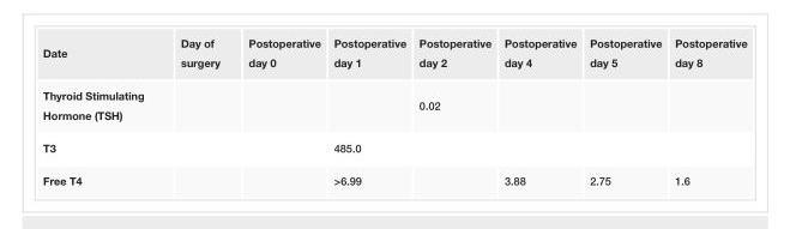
<table><tbody><tr><td>Date</td><td>Day of surgery</td><td>Postoperative day 0</td><td>Postoperative day 1</td><td>Postoperative day 2</td><td>Postoperative day 4</td><td>Postoperative day 5</td><td>Postoperative day 8</td></tr><tr><td>Thyroid Stimulating Hormone (TSH)</td><td></td><td></td><td></td><td>0.02</td><td></td><td></td><td></td></tr><tr><td>T3</td><td></td><td></td><td>485.0</td><td></td><td></td><td></td><td></td></tr><tr><td>Free T4</td><td></td><td></td><td>&gt;6.99</td><td></td><td>3.88</td><td>2.75</td><td>1.6</td></tr></tbody></table>